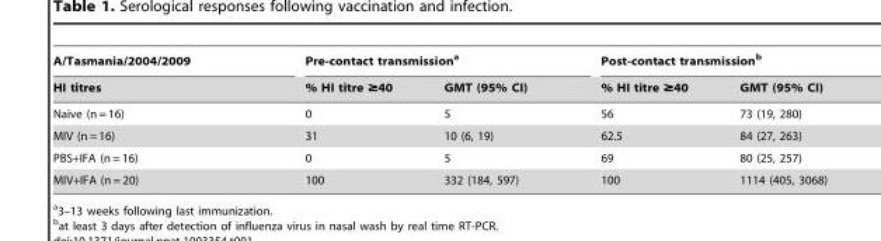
<table><thead><tr><td rowspan="2">A/Tasmania/2004/2009 HI titres</td><td colspan="2">Pre-contact transmission<sup>a</sup></td><td colspan="2">Post-contact transmission<sup>b</sup></td></tr><tr><td>% HI titre ≥40</td><td>GMT (95% CI)</td><td>% HI titre ≥40</td><td>GMT (95% CI)</td></tr></thead><tbody><tr><td>Naı¨ve (n = 16)</td><td>0</td><td>5</td><td>56</td><td>73 (19, 280)</td></tr><tr><td>MIV (n = 16)</td><td>31</td><td>10 (6, 19)</td><td>62.5</td><td>84 (27, 263)</td></tr><tr><td>PBS+IFA (n = 16)</td><td>0</td><td>5</td><td>69</td><td>80 (25, 257)</td></tr><tr><td>MIV+IFA (n = 20)</td><td>100</td><td>332 (184, 597)</td><td>100</td><td>1114 (405, 3068)</td></tr></tbody></table>